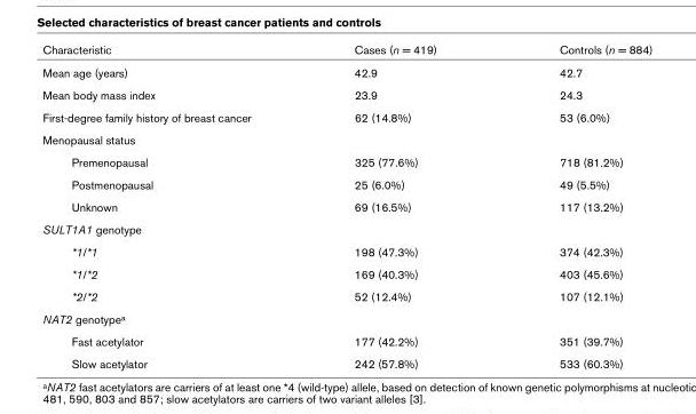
<table><thead><tr><td>Characteristic</td><td>Cases (n = 419)</td><td>Controls (n = 884)</td></tr></thead><tbody><tr><td>Mean age (years)</td><td>42.9</td><td>42.7</td></tr><tr><td>Mean body mass index</td><td>23.9</td><td>24.3</td></tr><tr><td>First-degree family history of breast cancer</td><td>62 (14.8%)</td><td>53 (6.0%)</td></tr><tr><td colspan="3">Menopausal status</td></tr><tr><td>Premenopausal</td><td>325 (77.6%)</td><td>718 (81.2%)</td></tr><tr><td>Postmenopausal</td><td>25 (6.0%)</td><td>49 (5.5%)</td></tr><tr><td>Unknown</td><td>69 (16.5%)</td><td>117 (13.2%)</td></tr><tr><td colspan="3">SULT1A1 genotype</td></tr><tr><td>*1/*1</td><td>198 (47.3%)</td><td>374 (42.3%)</td></tr><tr><td>*1/*2</td><td>169 (40.3%)</td><td>403 (45.6%)</td></tr><tr><td>*2/*2</td><td>52 (12.4%)</td><td>107 (12.1%)</td></tr><tr><td colspan="3">NAT2 genotypea</td></tr><tr><td>Fast acetylator</td><td>177 (42.2%)</td><td>351 (39.7%)</td></tr><tr><td>Slow acetylator</td><td>242 (57.8%)</td><td>533 (60.3%)</td></tr></tbody></table>